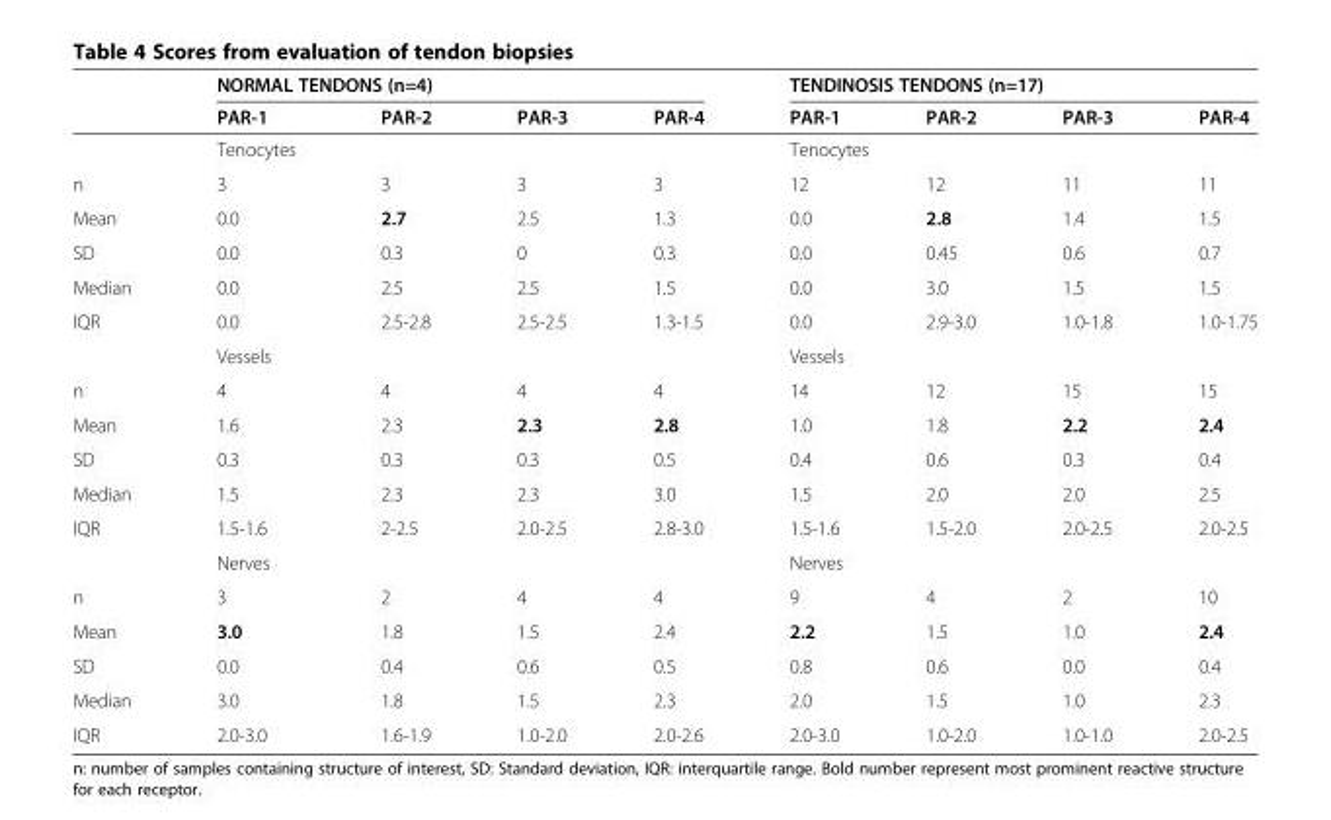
<table><thead><tr><td rowspan="2"></td><td colspan="4">NORMAL TENDONS (n=4)</td><td colspan="4">TENDINOSIS TENDONS (n=17)</td></tr><tr><td>PAR-1</td><td>PAR-2</td><td>PAR-3</td><td>PAR-4</td><td>PAR-1</td><td>PAR-2</td><td>PAR-3</td><td>PAR-4</td></tr></thead><tbody><tr><td></td><td>Tenocytes</td><td></td><td></td><td></td><td colspan="4">Tenocytes</td></tr><tr><td>n</td><td>3</td><td>3</td><td>3</td><td>3</td><td>12</td><td>12</td><td>11</td><td>11</td></tr><tr><td>Mean</td><td>0.0</td><td>2.7</td><td>2.5</td><td>1.3</td><td>0.0</td><td>2.8</td><td>1.4</td><td>1.5</td></tr><tr><td>SD</td><td>0.0</td><td>0.3</td><td>0</td><td>0.3</td><td>0.0</td><td>0.45</td><td>0.6</td><td>0.7</td></tr><tr><td>Median</td><td>0.0</td><td>2.5</td><td>2.5</td><td>1.5</td><td>0.0</td><td>3.0</td><td>1.5</td><td>1.5</td></tr><tr><td rowspan="2">IQR</td><td>0.0</td><td>2.5-2.8</td><td>2.5-2.5</td><td>1.3-1.5</td><td>0.0</td><td>2.9-3.0</td><td>1.0-1.8</td><td>1.0-1.75</td></tr><tr><td>Vessels</td><td></td><td></td><td></td><td colspan="4">Vessels</td></tr><tr><td>n</td><td>4</td><td>4</td><td>4</td><td>4</td><td>14</td><td>12</td><td>15</td><td>15</td></tr><tr><td>Mean</td><td>1.6</td><td>2.3</td><td>2.3</td><td>2.8</td><td>1.0</td><td>1.8</td><td>2.2</td><td>2.4</td></tr><tr><td>SD</td><td>0.3</td><td>0.3</td><td>0.3</td><td>0.5</td><td>0.4</td><td>0.6</td><td>0.3</td><td>0.4</td></tr><tr><td>Median</td><td>1.5</td><td>2.3</td><td>2.3</td><td>3.0</td><td>1.5</td><td>2.0</td><td>2.0</td><td>2.5</td></tr><tr><td rowspan="2">IQR</td><td>1.5-1.6</td><td>2-2.5</td><td>2.0-2.5</td><td>2.8-3.0</td><td>1.5-1.6</td><td>1.5-2.0</td><td>2.0-2.5</td><td>2.0-2.5</td></tr><tr><td>Nerves</td><td></td><td></td><td></td><td colspan="4">Nerves</td></tr><tr><td>n</td><td>3</td><td>2</td><td>4</td><td>4</td><td>9</td><td>4</td><td>2</td><td>10</td></tr><tr><td>Mean</td><td>3.0</td><td>1.8</td><td>1.5</td><td>2.4</td><td>2.2</td><td>1.5</td><td>1.0</td><td>2.4</td></tr><tr><td>SD</td><td>0.0</td><td>0.4</td><td>0.6</td><td>0.5</td><td>0.8</td><td>0.6</td><td>0.0</td><td>0.4</td></tr><tr><td>Median</td><td>3.0</td><td>1.8</td><td>1.5</td><td>2.3</td><td>2.0</td><td>1.5</td><td>1.0</td><td>2.3</td></tr><tr><td>IQR</td><td>2.0-3.0</td><td>1.6-1.9</td><td>1.0-2.0</td><td>2.0-2.6</td><td>2.0-3.0</td><td>1.0-2.0</td><td>1.0-1.0</td><td>2.0-2.5</td></tr></tbody></table>